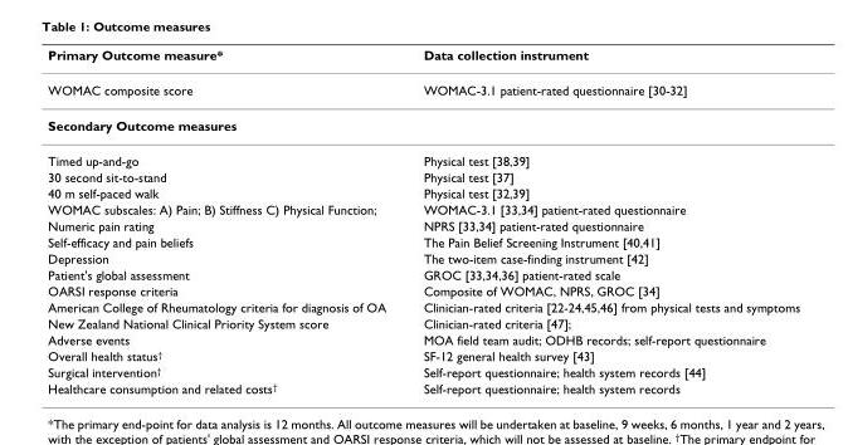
<table><thead><tr><td>Primary Outcome measure*</td><td>Data collection instrument</td></tr></thead><tbody><tr><td>WOMAC composite score</td><td>WOMAC-3.1 patient-rated questionnaire [30-32]</td></tr><tr><td colspan="2">Secondary Outcome measures</td></tr><tr><td>Timed up-and-go</td><td>Physical test [38,39]</td></tr><tr><td>30 second sit-to-stand</td><td>Physical test [37]</td></tr><tr><td>40 m self-paced walk</td><td>Physical test [32,39]</td></tr><tr><td>WOMAC subscales: A) Pain; B) Stiffness C) Physical Function;</td><td>WOMAC-3.1 [33,34] patient-rated questionnaire</td></tr><tr><td>Numeric pain rating</td><td>NPRS [33,34] patient-rated questionnaire</td></tr><tr><td>Self-efficacy and pain beliefs</td><td>The Pain Belief Screening Instrument [40,41]</td></tr><tr><td>Depression</td><td>The two-item case-finding instrument [42]</td></tr><tr><td>Patient&#x27;s global assessment</td><td>GROC [33,34,36] patient-rated scale</td></tr><tr><td>OARSI response criteria</td><td>Composite of WOMAC, NPRS, GROC [34]</td></tr><tr><td>American College of Rheumatology criteria for diagnosis of OA</td><td>Clinician-rated criteria [22-24,45,46] from physical tests and symptoms</td></tr><tr><td>New Zealand National Clinical Priority System score</td><td>Clinician-rated criteria [47];</td></tr><tr><td>Adverse events</td><td>MOA field team audit; ODHB records; self-report questionnaire</td></tr><tr><td>Overall health status<sup>†</sup></td><td>SF-12 general health survey [43]</td></tr><tr><td>Surgical intervention<sup>†</sup></td><td>Self-report questionnaire; health system records [44]</td></tr><tr><td>Healthcare consumption and related costs<sup>†</sup></td><td>Self-report questionnaire; health system records</td></tr></tbody></table>